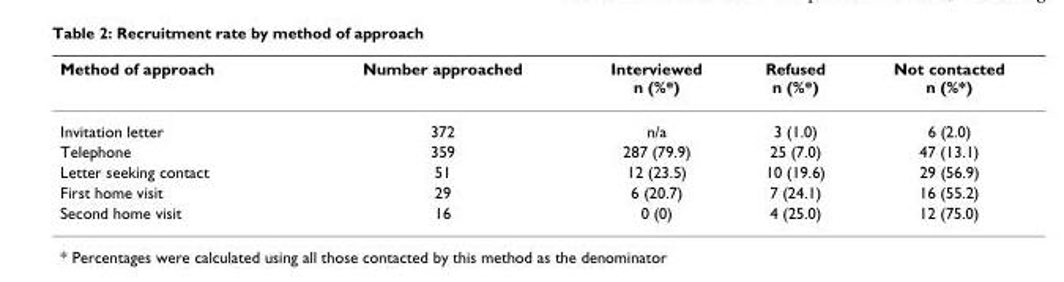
<table><thead><tr><td>Method of approach</td><td>Number approached</td><td>Interviewed n (%*)</td><td>Refused n (%*)</td><td>Not contacted n (%*)</td></tr></thead><tbody><tr><td>Invitation letter</td><td>372</td><td>n/a</td><td>3 (1.0)</td><td>6 (2.0)</td></tr><tr><td>Telephone</td><td>359</td><td>287 (79.9)</td><td>25 (7.0)</td><td>47 (13.1)</td></tr><tr><td>Letter seeking contact</td><td>51</td><td>12 (23.5)</td><td>10 (19.6)</td><td>29 (56.9)</td></tr><tr><td>First home visit</td><td>29</td><td>6 (20.7)</td><td>7 (24.1)</td><td>16 (55.2)</td></tr><tr><td>Second home visit</td><td>16</td><td>0 (0)</td><td>4 (25.0)</td><td>12 (75.0)</td></tr></tbody></table>